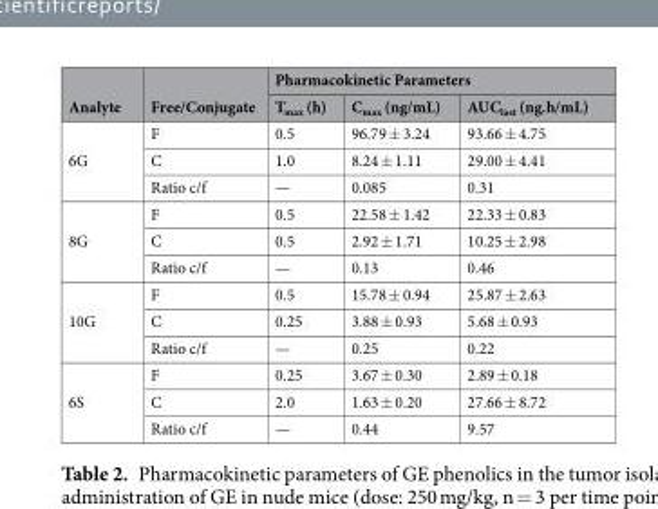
<table><thead><tr><td rowspan="2">Analyte</td><td rowspan="2">Free/Conjugate</td><td colspan="3">Pharmacokinetic Parameters</td></tr><tr><td>T<sub>max</sub> (h)</td><td>C<sub>max</sub> (ng/mL)</td><td>AUC<sub>last</sub> (ng.h/mL)</td></tr></thead><tbody><tr><td rowspan="3">6G</td><td>F</td><td>0.5</td><td>96.79 ± 3.24</td><td>93.66 ± 4.75</td></tr><tr><td>C</td><td>1.0</td><td>8.24 ± 1.11</td><td>29.00 ± 4.41</td></tr><tr><td>Ratio c/f</td><td>—</td><td>0.085</td><td>0.31</td></tr><tr><td rowspan="3">8G</td><td>F</td><td>0.5</td><td>22.58 ± 1.42</td><td>22.33 ± 0.83</td></tr><tr><td>C</td><td>0.5</td><td>2.92 ± 1.71</td><td>10.25 ± 2.98</td></tr><tr><td>Ratio c/f</td><td>—</td><td>0.13</td><td>0.46</td></tr><tr><td rowspan="3">10G</td><td>F</td><td>0.5</td><td>15.78 ± 0.94</td><td>25.87 ± 2.63</td></tr><tr><td>C</td><td>0.25</td><td>3.88 ± 0.93</td><td>5.68 ± 0.93</td></tr><tr><td>Ratio c/f</td><td>—</td><td>0.25</td><td>0.22</td></tr><tr><td rowspan="3">6S</td><td>F</td><td>0.25</td><td>3.67 ± 0.30</td><td>2.89 ± 0.18</td></tr><tr><td>C</td><td>2.0</td><td>1.63 ± 0.20</td><td>27.66 ± 8.72</td></tr><tr><td>Ratio c/f</td><td>—</td><td>0.44</td><td>9.57</td></tr></tbody></table>